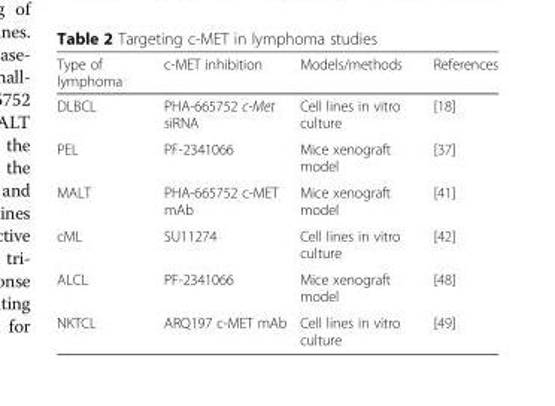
<table><thead><tr><td>Type of lymphoma</td><td>c-MET inhibition</td><td>Models/methods</td><td>References</td></tr></thead><tbody><tr><td>DLBCL</td><td>PHA-665752 c-Met siRNA</td><td>Cell lines in vitro culture</td><td>[18]</td></tr><tr><td>PEL</td><td>PF-2341066</td><td>Mice xenograft model</td><td>[37]</td></tr><tr><td>MALT</td><td>PHA-665752 c-MET mAb</td><td>Mice xenograft model</td><td>[41]</td></tr><tr><td>cML</td><td>SU11274</td><td>Cell lines in vitro culture</td><td>[42]</td></tr><tr><td>ALCL</td><td>PF-2341066</td><td>Mice xenograft model</td><td>[48]</td></tr><tr><td>NKTCL</td><td>ARQ197 c-MET mAb</td><td>Cell lines in vitro culture</td><td>[49]</td></tr></tbody></table>